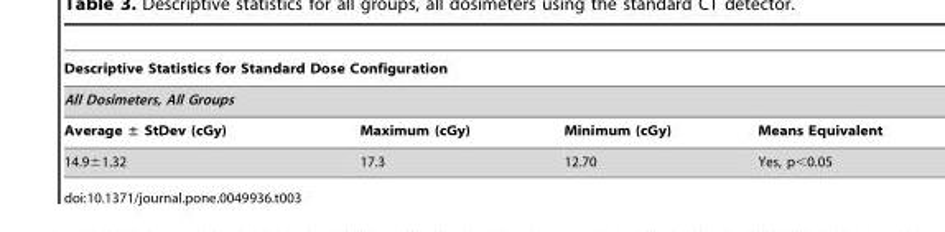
<table><thead><tr><td rowspan="2" colspan="4">Descriptive Statistics for Standard Dose Configuration All Dosimeters, All Groups</td></tr><tr></tr><tr><td>Average ± StDev (cGy)</td><td>Maximum (cGy)</td><td>Minimum (cGy)</td><td>Means Equivalent</td></tr></thead><tbody><tr><td>14.9±1.32</td><td>17.3</td><td>12.70</td><td>Yes, p&lt;0.05</td></tr></tbody></table>